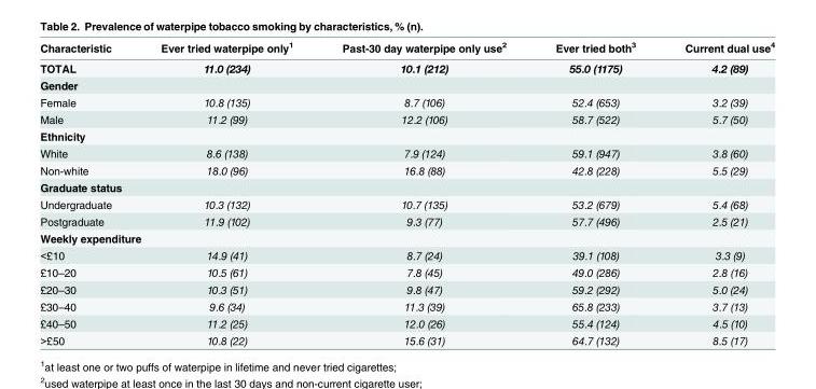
<table><thead><tr><td>Characteristic</td><td>Ever tried waterpipe only<sup>1</sup></td><td>Past-30 day waterpipe only use<sup>2</sup></td><td>Ever tried both<sup>3</sup></td><td>Current dual use<sup>4</sup></td></tr></thead><tbody><tr><td>TOTAL</td><td>11.0 (234)</td><td>10.1 (212)</td><td>55.0 (1175)</td><td>4.2 (89)</td></tr><tr><td colspan="5">Gender</td></tr><tr><td>Female</td><td>10.8 (135)</td><td>8.7 (106)</td><td>52.4 (653)</td><td>3.2 (39)</td></tr><tr><td>Male</td><td>11.2 (99)</td><td>12.2 (106)</td><td>58.7 (522)</td><td>5.7 (50)</td></tr><tr><td colspan="5">Ethnicity</td></tr><tr><td>White</td><td>8.6 (138)</td><td>7.9 (124)</td><td>59.1 (947)</td><td>3.8 (60)</td></tr><tr><td>Non-white</td><td>18.0 (96)</td><td>16.8 (88)</td><td>42.8 (228)</td><td>5.5 (29)</td></tr><tr><td colspan="5">Graduate status</td></tr><tr><td>Undergraduate</td><td>10.3 (132)</td><td>10.7 (135)</td><td>53.2 (679)</td><td>5.4 (68)</td></tr><tr><td>Postgraduate</td><td>11.9 (102)</td><td>9.3 (77)</td><td>57.7 (496)</td><td>2.5 (21)</td></tr><tr><td colspan="5">Weekly expenditure</td></tr><tr><td>&lt;£10</td><td>14.9 (41)</td><td>8.7 (24)</td><td>39.1 (108)</td><td>3.3 (9)</td></tr><tr><td>£10–20</td><td>10.5 (61)</td><td>7.8 (45)</td><td>49.0 (286)</td><td>2.8 (16)</td></tr><tr><td>£20–30</td><td>10.3 (51)</td><td>9.8 (47)</td><td>59.2 (292)</td><td>5.0 (24)</td></tr><tr><td>£30–40</td><td>9.6 (34)</td><td>11.3 (39)</td><td>65.8 (233)</td><td>3.7 (13)</td></tr><tr><td>£40–50</td><td>11.2 (25)</td><td>12.0 (26)</td><td>55.4 (124)</td><td>4.5 (10)</td></tr><tr><td>&gt;£50</td><td>10.8 (22)</td><td>15.6 (31)</td><td>64.7 (132)</td><td>8.5 (17)</td></tr></tbody></table>